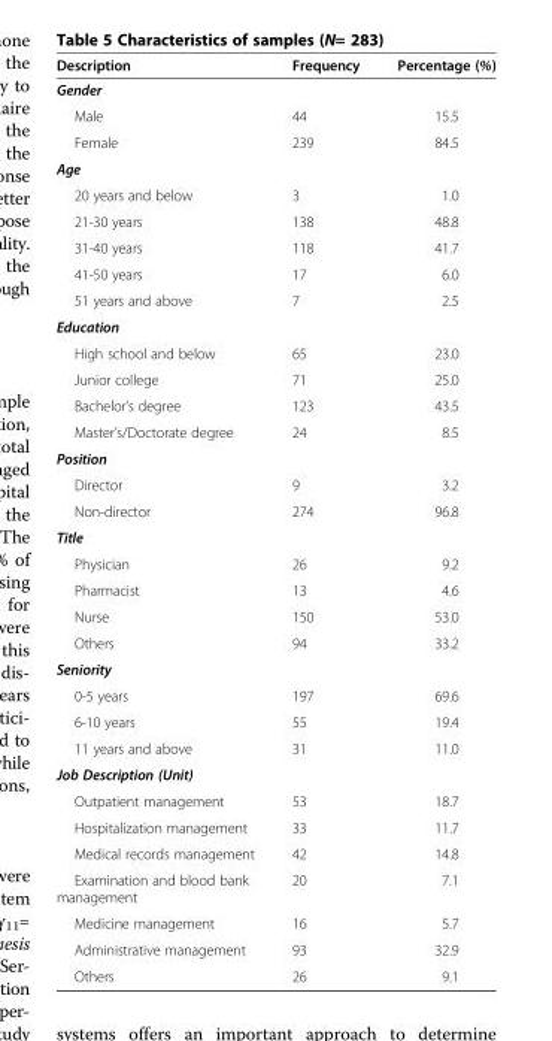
<table><thead><tr><td>Description</td><td>Frequency</td><td>Percentage (%)</td></tr></thead><tbody><tr><td colspan="3">Gender</td></tr><tr><td>Male</td><td>44</td><td>15.5</td></tr><tr><td>Female</td><td>239</td><td>84.5</td></tr><tr><td colspan="3">Age</td></tr><tr><td>20 years and below</td><td>3</td><td>1.0</td></tr><tr><td>21-30 years</td><td>138</td><td>48.8</td></tr><tr><td>31-40 years</td><td>118</td><td>41.7</td></tr><tr><td>41-50 years</td><td>17</td><td>6.0</td></tr><tr><td>51 years and above</td><td>7</td><td>2.5</td></tr><tr><td colspan="3">Education</td></tr><tr><td>High school and below</td><td>65</td><td>23.0</td></tr><tr><td>Junior college</td><td>71</td><td>25.0</td></tr><tr><td>Bachelor’s degree</td><td>123</td><td>43.5</td></tr><tr><td>Master’s/Doctorate degree</td><td>24</td><td>8.5</td></tr><tr><td colspan="3">Position</td></tr><tr><td>Director</td><td>9</td><td>3.2</td></tr><tr><td>Non-director</td><td>274</td><td>96.8</td></tr><tr><td colspan="3">Title</td></tr><tr><td>Physician</td><td>26</td><td>9.2</td></tr><tr><td>Pharmacist</td><td>13</td><td>4.6</td></tr><tr><td>Nurse</td><td>150</td><td>53.0</td></tr><tr><td>Others</td><td>94</td><td>33.2</td></tr><tr><td colspan="3">Seniority</td></tr><tr><td>0-5 years</td><td>197</td><td>69.6</td></tr><tr><td>6-10 years</td><td>55</td><td>19.4</td></tr><tr><td>11 years and above</td><td>31</td><td>11.0</td></tr><tr><td colspan="3">Job Description (Unit)</td></tr><tr><td>Outpatient management</td><td>53</td><td>18.7</td></tr><tr><td>Hospitalization management</td><td>33</td><td>11.7</td></tr><tr><td>Medical records management</td><td>42</td><td>14.8</td></tr><tr><td>Examination and blood bank management</td><td>20</td><td>7.1</td></tr><tr><td>Medicine management</td><td>16</td><td>5.7</td></tr><tr><td>Administrative management</td><td>93</td><td>32.9</td></tr><tr><td>Others</td><td>26</td><td>9.1</td></tr></tbody></table>